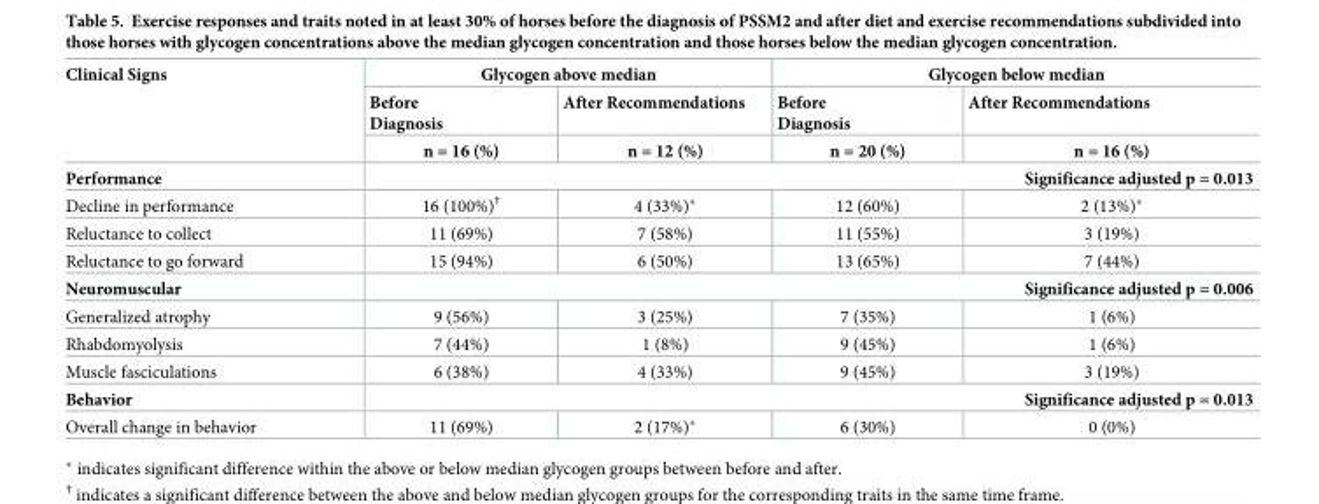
<table><thead><tr><td rowspan="3">Clinical Signs</td><td colspan="2">Glycogen above median</td><td colspan="2">Glycogen below median</td></tr><tr><td rowspan="2">Before Diagnosis n = 16 (%)</td><td rowspan="2">After Recommendations n = 12 (%)</td><td rowspan="2">Before Diagnosis n = 20 (%)</td><td rowspan="2">After Recommendations n = 16 (%)</td></tr><tr></tr></thead><tbody><tr><td>Performance</td><td colspan="4">Significance adjusted p = 0.013</td></tr><tr><td>Decline in performance</td><td>16 (100%)<sup>†</sup></td><td>4 (33%)*</td><td>12 (60%)</td><td>2 (13%)*</td></tr><tr><td>Reluctance to collect</td><td>11 (69%)</td><td>7 (58%)</td><td>11 (55%)</td><td>3 (19%)</td></tr><tr><td>Reluctance to go forward</td><td>15 (94%)</td><td>6 (50%)</td><td>13 (65%)</td><td>7 (44%)</td></tr><tr><td>Neuromuscular</td><td colspan="4">Significance adjusted p = 0.006</td></tr><tr><td>Generalized atrophy</td><td>9 (56%)</td><td>3 (25%)</td><td>7 (35%)</td><td>1 (6%)</td></tr><tr><td>Rhabdomyolysis</td><td>7 (44%)</td><td>1 (8%)</td><td>9 (45%)</td><td>1 (6%)</td></tr><tr><td>Muscle fasciculations</td><td>6 (38%)</td><td>4 (33%)</td><td>9 (45%)</td><td>3 (19%)</td></tr><tr><td>Behavior</td><td colspan="4">Significance adjusted p = 0.013</td></tr><tr><td>Overall change in behavior</td><td>11 (69%)</td><td>2 (17%)*</td><td>6 (30%)</td><td>0 (0%)</td></tr></tbody></table>